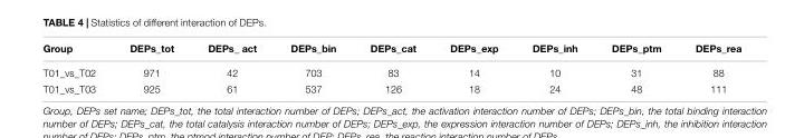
<table><thead><tr><td>Group</td><td>DEPs_tot</td><td>DEPs_ act</td><td>DEPs_bin</td><td>DEPs_cat</td><td>DEPs_exp</td><td>DEPs_inh</td><td>DEPs_ptm</td><td>DEPs_rea</td></tr></thead><tbody><tr><td>T01_vs_T02</td><td>971</td><td>42</td><td>703</td><td>83</td><td>14</td><td>10</td><td>31</td><td>88</td></tr><tr><td>T01_vs_T03</td><td>925</td><td>61</td><td>537</td><td>126</td><td>18</td><td>24</td><td>48</td><td>111</td></tr></tbody></table>